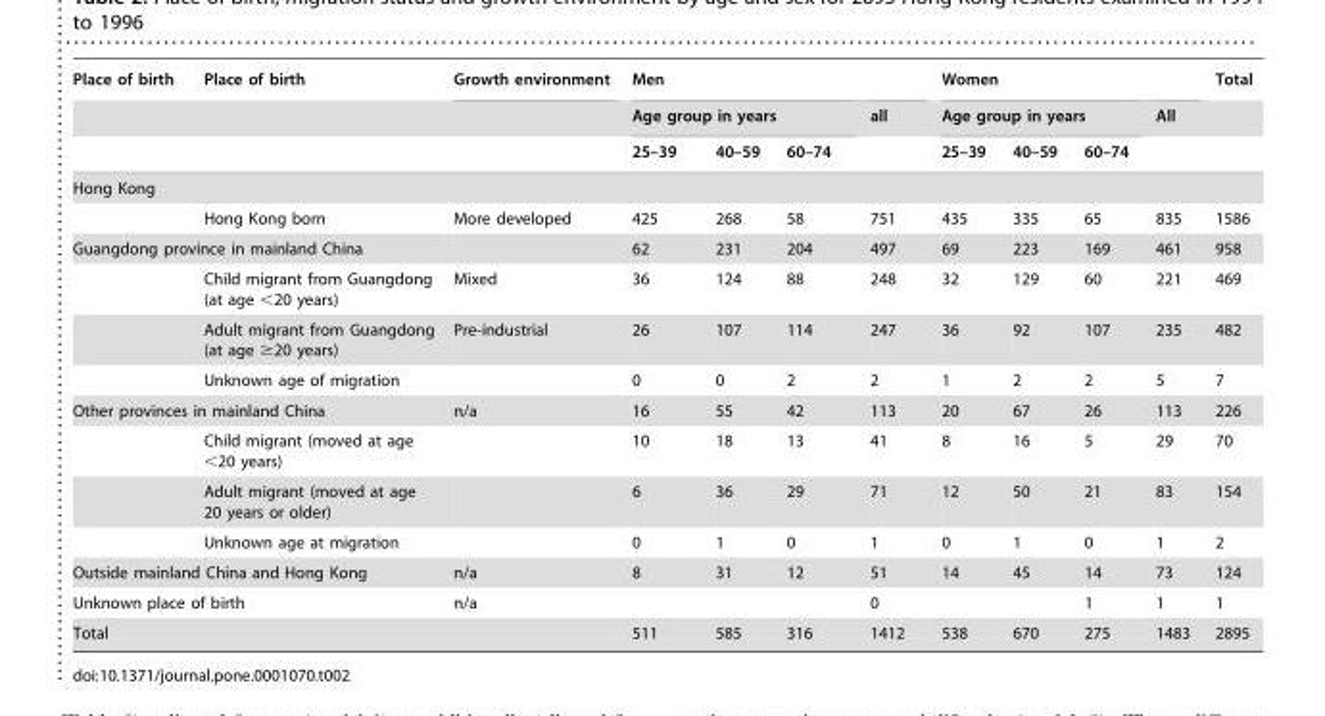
<table><thead><tr><td rowspan="3">Place of birth</td><td rowspan="3">Place of birth</td><td rowspan="3">Growth environment</td><td colspan="4">Men</td><td colspan="4">Women</td><td rowspan="3">Total</td></tr><tr><td colspan="3">Age group in years</td><td rowspan="2">all</td><td colspan="3">Age group in years</td><td rowspan="2">All</td></tr><tr><td>25–39</td><td>40–59</td><td>60–74</td><td>25–39</td><td>40–59</td><td>60–74</td></tr></thead><tbody><tr><td colspan="12">Hong Kong</td></tr><tr><td></td><td>Hong Kong born</td><td>More developed</td><td>425</td><td>268</td><td>58</td><td>751</td><td>435</td><td>335</td><td>65</td><td>835</td><td>1586</td></tr><tr><td colspan="2">Guangdong province in mainland China</td><td></td><td>62</td><td>231</td><td>204</td><td>497</td><td>69</td><td>223</td><td>169</td><td>461</td><td>958</td></tr><tr><td></td><td>Child migrant from Guangdong (at age &lt;20 years)</td><td>Mixed</td><td>36</td><td>124</td><td>88</td><td>248</td><td>32</td><td>129</td><td>60</td><td>221</td><td>469</td></tr><tr><td></td><td>Adult migrant from Guangdong (at age ≥20 years)</td><td>Pre-industrial</td><td>26</td><td>107</td><td>114</td><td>247</td><td>36</td><td>92</td><td>107</td><td>235</td><td>482</td></tr><tr><td></td><td>Unknown age of migration</td><td></td><td>0</td><td>0</td><td>2</td><td>2</td><td>1</td><td>2</td><td>2</td><td>5</td><td>7</td></tr><tr><td colspan="2">Other provinces in mainland China</td><td>n/a</td><td>16</td><td>55</td><td>42</td><td>113</td><td>20</td><td>67</td><td>26</td><td>113</td><td>226</td></tr><tr><td></td><td>Child migrant (moved at age &lt;20 years)</td><td></td><td>10</td><td>18</td><td>13</td><td>41</td><td>8</td><td>16</td><td>5</td><td>29</td><td>70</td></tr><tr><td></td><td>Adult migrant (moved at age 20 years or older)</td><td></td><td>6</td><td>36</td><td>29</td><td>71</td><td>12</td><td>50</td><td>21</td><td>83</td><td>154</td></tr><tr><td></td><td>Unknown age at migration</td><td></td><td>0</td><td>1</td><td>0</td><td>1</td><td>0</td><td>1</td><td>0</td><td>1</td><td>2</td></tr><tr><td colspan="2">Outside mainland China and Hong Kong</td><td>n/a</td><td>8</td><td>31</td><td>12</td><td>51</td><td>14</td><td>45</td><td>14</td><td>73</td><td>124</td></tr><tr><td colspan="2">Unknown place of birth</td><td>n/a</td><td></td><td></td><td></td><td>0</td><td></td><td></td><td>1</td><td>1</td><td>1</td></tr><tr><td colspan="2">Total</td><td></td><td>511</td><td>585</td><td>316</td><td>1412</td><td>538</td><td>670</td><td>275</td><td>1483</td><td>2895</td></tr></tbody></table>